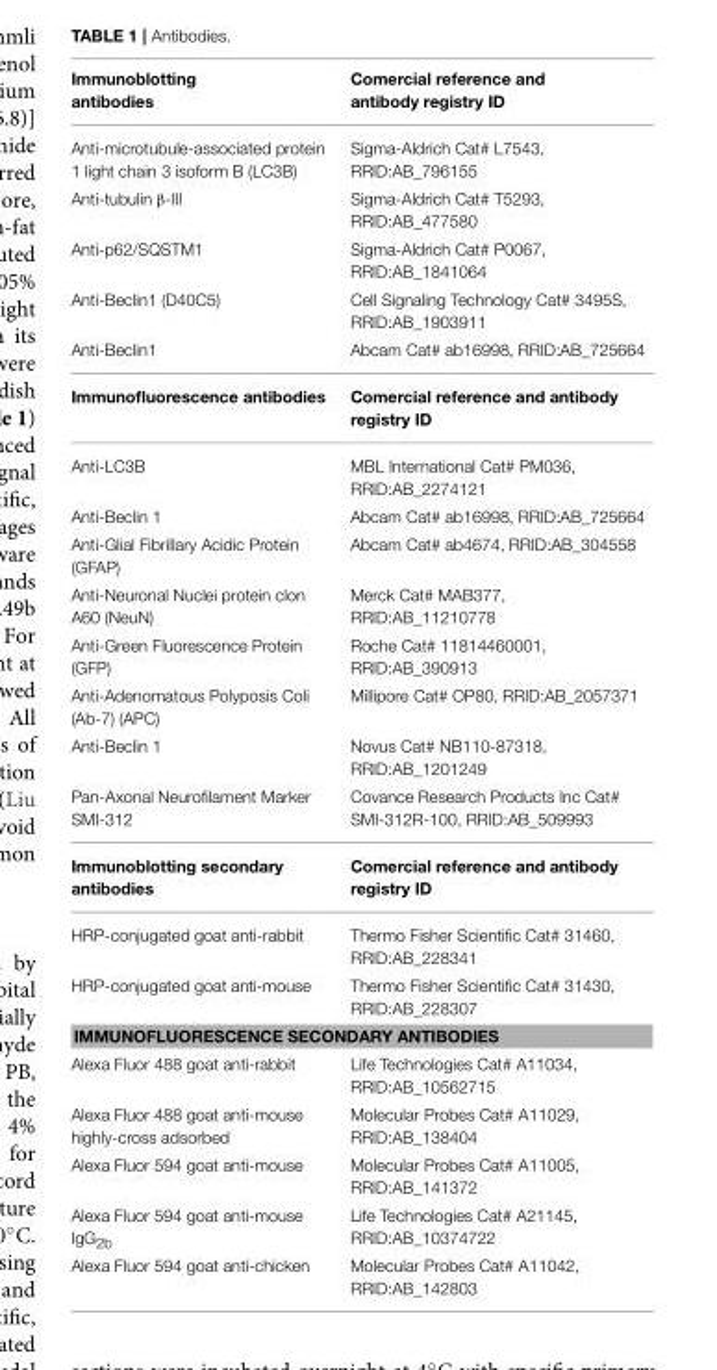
<table><thead><tr><td>Immunoblotting antibodies</td><td>Comercial reference and antibody registry ID</td></tr></thead><tbody><tr><td>Anti-microtubule-associated protein 1 light chain 3 isoform B (LC3B)</td><td>Sigma-Aldrich Cat# L7543, RRID:AB_796155</td></tr><tr><td>Anti-tubulin β-III</td><td>Sigma-Aldrich Cat# T5293, RRID:AB_477580</td></tr><tr><td>Anti-p62/SQSTM1</td><td>Sigma-Aldrich Cat# P0067, RRID:AB_1841064</td></tr><tr><td>Anti-Beclin1 (D40C5)</td><td>Cell Signaling Technology Cat# 3495S, RRID:AB_1903911</td></tr><tr><td>Anti-Beclin1</td><td>Abcam Cat# ab16998, RRID:AB_725664</td></tr><tr><td>Immunofluorescence antibodies</td><td>Comercial reference and antibody registry ID</td></tr><tr><td>Anti-LC3B</td><td>MBL International Cat# PM036, RRID:AB_2274121</td></tr><tr><td>Anti-Beclin 1</td><td>Abcam Cat# ab16998, RRID:AB_725664</td></tr><tr><td>Anti-Glial Fibrillary Acidic Protein (GFAP)</td><td>Abcam Cat# ab4674, RRID:AB_304558</td></tr><tr><td>Anti-Neuronal Nuclei protein clon A60 (NeuN)</td><td>Merck Cat# MAB377, RRID:AB_11210778</td></tr><tr><td>Anti-Green Fluorescence Protein (GFP)</td><td>Roche Cat# 11814460001, RRID:AB_390913</td></tr><tr><td>Anti-Adenomatous Polyposis Coli (Ab-7) (APC)</td><td>Millipore Cat# OP80, RRID:AB_2057371</td></tr><tr><td>Anti-Beclin 1</td><td>Novus Cat# NB110-87318, RRID:AB_1201249</td></tr><tr><td>Pan-Axonal Neurofilament Marker SMI-312</td><td>Covance Research Products Inc Cat# SMI-312R-100, RRID:AB_509993</td></tr><tr><td>Immunoblotting secondary antibodies</td><td>Comercial reference and antibody registry ID</td></tr><tr><td>HRP-conjugated goat anti-rabbit</td><td>Thermo Fisher Scientific Cat# 31460, RRID:AB_228341</td></tr><tr><td>HRP-conjugated goat anti-mouse</td><td>Thermo Fisher Scientific Cat# 31430, RRID:AB_228307</td></tr><tr><td colspan="2">IMMUNOFLUORESCENCE SECONDARY ANTIBODIES</td></tr><tr><td>Alexa Fluor 488 goat anti-rabbit</td><td>Life Technologies Cat# A11034, RRID:AB_10562715</td></tr><tr><td>Alexa Fluor 488 goat anti-mouse highly-cross adsorbed</td><td>Molecular Probes Cat# A11029, RRID:AB_138404</td></tr><tr><td>Alexa Fluor 594 goat anti-mouse</td><td>Molecular Probes Cat# A11005, RRID:AB_141372</td></tr><tr><td>Alexa Fluor 594 goat anti-mouse IgG<sub>2b</sub></td><td>Life Technologies Cat# A21145, RRID:AB_10374722</td></tr><tr><td>Alexa Fluor 594 goat anti-chicken</td><td>Molecular Probes Cat# A11042, RRID:AB_142803</td></tr></tbody></table>